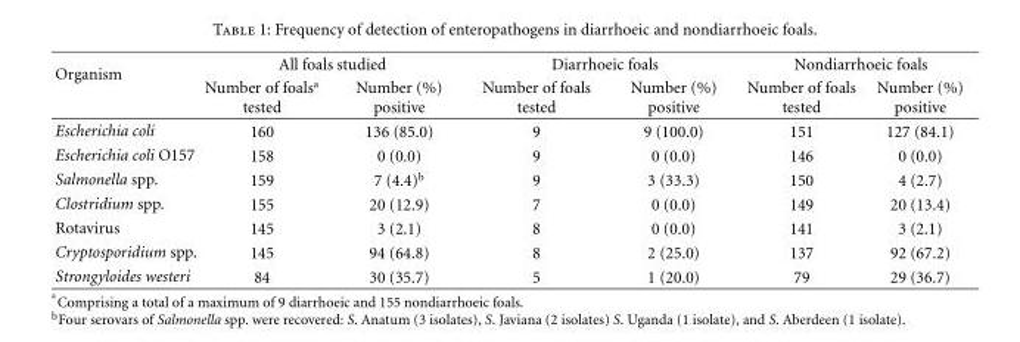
<table><thead><tr><td rowspan="2">Organism</td><td colspan="2">All foals studied</td><td colspan="2">Diarrhoeic foals</td><td colspan="2">Nondiarrhoeic foals</td></tr><tr><td>Number of foals<sup>a</sup> tested</td><td>Number (%) positive</td><td>Number of foals tested</td><td>Number (%) positive</td><td>Number of foals tested</td><td>Number (%) positive</td></tr></thead><tbody><tr><td>Escherichia coli</td><td>160</td><td>136 (85.0)</td><td>9</td><td>9 (100.0)</td><td>151</td><td>127 (84.1)</td></tr><tr><td>Escherichia coli O157</td><td>158</td><td>0 (0.0)</td><td>9</td><td>0 (0.0)</td><td>146</td><td>0 (0.0)</td></tr><tr><td>Salmonella spp.</td><td>159</td><td>7 (4.4)<sup>b</sup></td><td>9</td><td>3 (33.3)</td><td>150</td><td>4 (2.7)</td></tr><tr><td>Clostridium spp.</td><td>155</td><td>20 (12.9)</td><td>7</td><td>0 (0.0)</td><td>149</td><td>20 (13.4)</td></tr><tr><td>Rotavirus</td><td>145</td><td>3 (2.1)</td><td>8</td><td>0 (0.0)</td><td>141</td><td>3 (2.1)</td></tr><tr><td>Cryptosporidium spp.</td><td>145</td><td>94 (64.8)</td><td>8</td><td>2 (25.0)</td><td>137</td><td>92 (67.2)</td></tr><tr><td>Strongyloides westeri</td><td>84</td><td>30 (35.7)</td><td>5</td><td>1 (20.0)</td><td>79</td><td>29 (36.7)</td></tr></tbody></table>